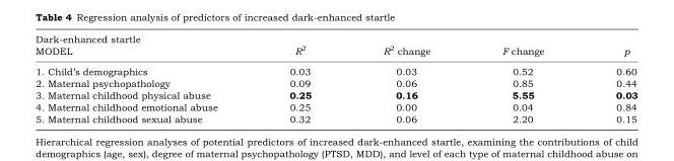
<table><thead><tr><td>Dark-enhanced startle MODEL</td><td>R<sup>2</sup></td><td>R<sup>2</sup> change</td><td>F change</td><td>p</td></tr></thead><tbody><tr><td>1. Child’s demographics</td><td>0.03</td><td>0.03</td><td>0.52</td><td>0.60</td></tr><tr><td>2. Maternal psychopathology</td><td>0.09</td><td>0.06</td><td>0.85</td><td>0.44</td></tr><tr><td>3. Maternal childhood physical abuse</td><td>0.25</td><td>0.16</td><td>5.55</td><td>0.03</td></tr><tr><td>4. Maternal childhood emotional abuse</td><td>0.25</td><td>0.00</td><td>0.04</td><td>0.84</td></tr><tr><td>5. Maternal childhood sexual abuse</td><td>0.32</td><td>0.06</td><td>2.20</td><td>0.15</td></tr></tbody></table>